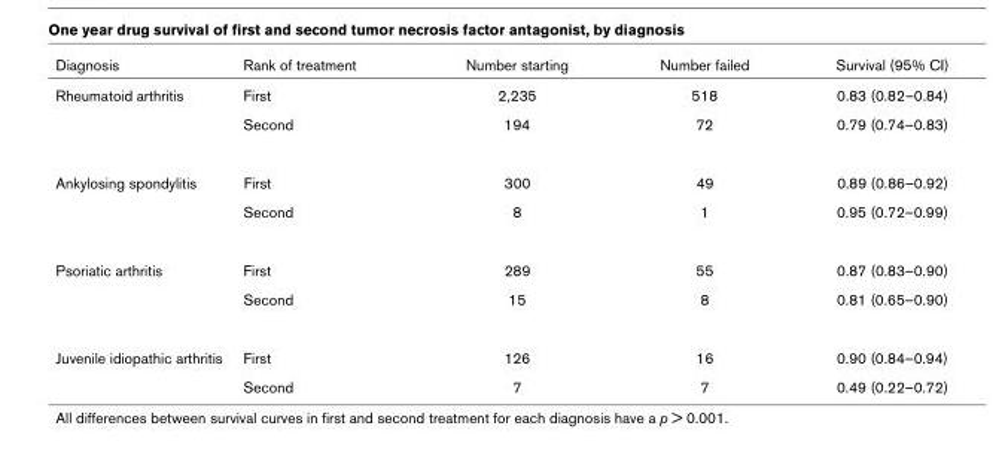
<table><thead><tr><td>Diagnosis</td><td>Rank of treatment</td><td>Number starting</td><td>Number failed</td><td>Survival (95% CI)</td></tr></thead><tbody><tr><td rowspan="2">Rheumatoid arthritis</td><td>First</td><td>2,235</td><td>518</td><td>0.83 (0.82–0.84)</td></tr><tr><td>Second</td><td>194</td><td>72</td><td>0.79 (0.74–0.83)</td></tr><tr><td rowspan="2">Ankylosing spondylitis</td><td>First</td><td>300</td><td>49</td><td>0.89 (0.86–0.92)</td></tr><tr><td>Second</td><td>8</td><td>1</td><td>0.95 (0.72–0.99)</td></tr><tr><td rowspan="2">Psoriatic arthritis</td><td>First</td><td>289</td><td>55</td><td>0.87 (0.83–0.90)</td></tr><tr><td>Second</td><td>15</td><td>8</td><td>0.81 (0.65–0.90)</td></tr><tr><td rowspan="2">Juvenile idiopathic arthritis</td><td>First</td><td>126</td><td>16</td><td>0.90 (0.84–0.94)</td></tr><tr><td>Second</td><td>7</td><td>7</td><td>0.49 (0.22–0.72)</td></tr></tbody></table>